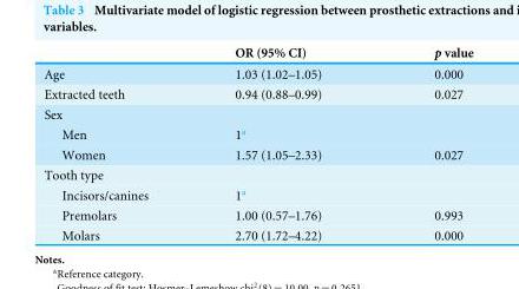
<table><thead><tr><td></td><td>OR (95% CI)</td><td>p value</td></tr></thead><tbody><tr><td>Age</td><td>1.03 (1.02–1.05)</td><td>0.000</td></tr><tr><td>Extracted teeth</td><td>0.94 (0.88–0.99)</td><td>0.027</td></tr><tr><td colspan="3">Sex</td></tr><tr><td>Men</td><td>1<sup>a</sup></td><td></td></tr><tr><td>Women</td><td>1.57 (1.05–2.33)</td><td>0.027</td></tr><tr><td colspan="3">Tooth type</td></tr><tr><td>Incisors/canines</td><td>1<sup>a</sup></td><td></td></tr><tr><td>Premolars</td><td>1.00 (0.57–1.76)</td><td>0.993</td></tr><tr><td>Molars</td><td>2.70 (1.72–4.22)</td><td>0.000</td></tr></tbody></table>